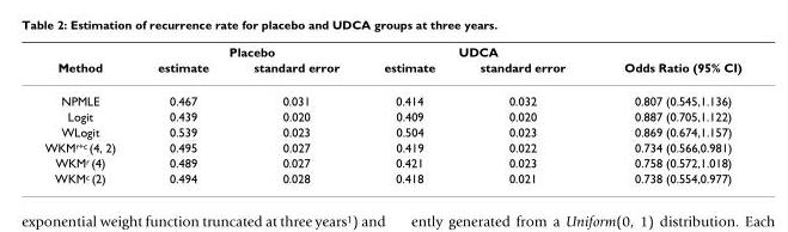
<table><thead><tr><td rowspan="2">Method</td><td colspan="2">Placebo</td><td colspan="2">UDCA</td><td rowspan="2">Odds Ratio (95% CI)</td></tr><tr><td>estimate</td><td>standard error</td><td>estimate</td><td>standard error</td></tr></thead><tbody><tr><td>NPMLE</td><td>0.467</td><td>0.031</td><td>0.414</td><td>0.032</td><td>0.807 (0.545,1.136)</td></tr><tr><td>Logit</td><td>0.439</td><td>0.020</td><td>0.409</td><td>0.020</td><td>0.887 (0.705,1.122)</td></tr><tr><td>WLogit</td><td>0.539</td><td>0.023</td><td>0.504</td><td>0.023</td><td>0.869 (0.674,1.157)</td></tr><tr><td>WKM<sup>r+c</sup> (4, 2)</td><td>0.495</td><td>0.027</td><td>0.419</td><td>0.022</td><td>0.734 (0.566,0.981)</td></tr><tr><td>WKM<sup>r</sup> (4)</td><td>0.489</td><td>0.027</td><td>0.421</td><td>0.023</td><td>0.758 (0.572,1.018)</td></tr><tr><td>WKM<sup>c</sup> (2)</td><td>0.494</td><td>0.028</td><td>0.418</td><td>0.021</td><td>0.738 (0.554,0.977)</td></tr></tbody></table>